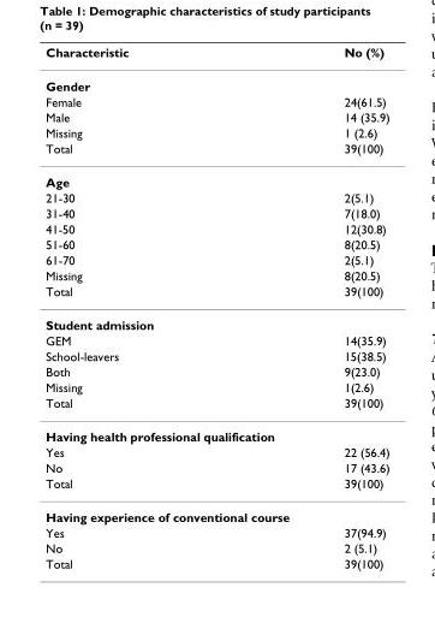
<table><thead><tr><td>Characteristic</td><td>No (%)</td></tr></thead><tbody><tr><td colspan="2">Gender</td></tr><tr><td>Female</td><td>24(61.5)</td></tr><tr><td>Male</td><td>14 (35.9)</td></tr><tr><td>Missing</td><td>1 (2.6)</td></tr><tr><td>Total</td><td>39(100)</td></tr><tr><td colspan="2">Age</td></tr><tr><td>21-30</td><td>2(5.1)</td></tr><tr><td>31-40</td><td>7(18.0)</td></tr><tr><td>41-50</td><td>12(30.8)</td></tr><tr><td>51-60</td><td>8(20.5)</td></tr><tr><td>61-70</td><td>2(5.1)</td></tr><tr><td>Missing</td><td>8(20.5)</td></tr><tr><td>Total</td><td>39(100)</td></tr><tr><td colspan="2">Student admission</td></tr><tr><td>GEM</td><td>14(35.9)</td></tr><tr><td>School-leavers</td><td>15(38.5)</td></tr><tr><td>Both</td><td>9(23.0)</td></tr><tr><td>Missing</td><td>1(2.6)</td></tr><tr><td>Total</td><td>39(100)</td></tr><tr><td colspan="2">Having health professional qualification</td></tr><tr><td>Yes</td><td>22 (56.4)</td></tr><tr><td>No</td><td>17 (43.6)</td></tr><tr><td>Total</td><td>39(100)</td></tr><tr><td colspan="2">Having experience of conventional course</td></tr><tr><td>Yes</td><td>37(94.9)</td></tr><tr><td>No</td><td>2 (5.1)</td></tr><tr><td>Total</td><td>39(100)</td></tr></tbody></table>